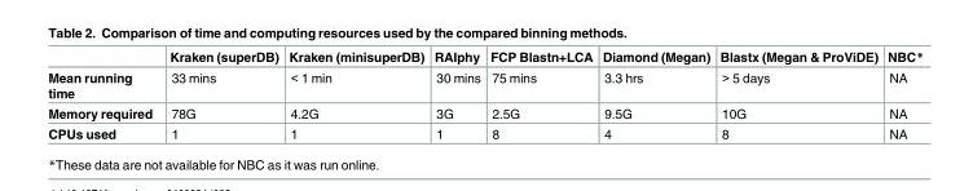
<table><thead><tr><td></td><td>Kraken (superDB)</td><td>Kraken (minisuperDB)</td><td>RAIphy</td><td>FCP Blastn+LCA</td><td>Diamond (Megan)</td><td>Blastx (Megan &amp; ProViDE)</td><td>NBC*</td></tr></thead><tbody><tr><td>Mean running time</td><td>33 mins</td><td>&lt; 1 min</td><td>30 mins</td><td>75 mins</td><td>3.3 hrs</td><td>&gt; 5 days</td><td>NA</td></tr><tr><td>Memory required</td><td>78G</td><td>4.2G</td><td>3G</td><td>2.5G</td><td>9.5G</td><td>10G</td><td>NA</td></tr><tr><td>CPUs used</td><td>1</td><td>1</td><td>1</td><td>8</td><td>4</td><td>8</td><td>NA</td></tr></tbody></table>